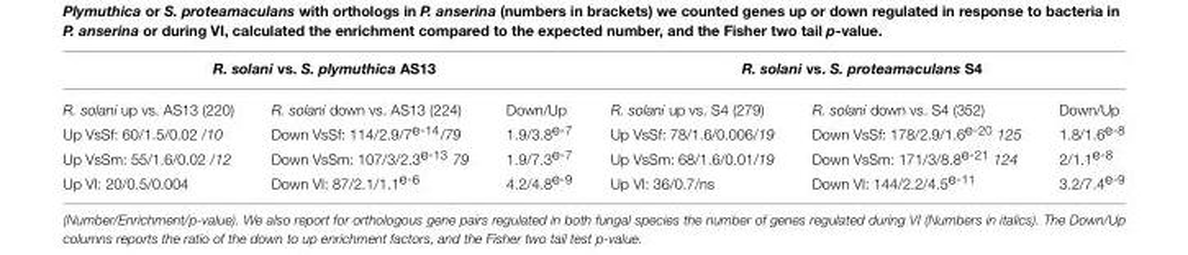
<table><thead><tr><td colspan="3">R. solani vs. S. plymuthica AS13</td><td colspan="3">R. solani vs. S. proteamaculans S4</td></tr><tr><td>R. solani up vs. AS13 (220)</td><td>R. solani down vs. AS13 (224)</td><td>Down/Up</td><td>R. solani up vs. S4 (279)</td><td>R. solani down vs. S4 (352)</td><td>Down/Up</td></tr></thead><tbody><tr><td>Up VsSf: 60/1.5/0.02 /10</td><td>Down VsSf: 114/2.9/7<sup>e-14</sup>/79</td><td>1.9/3.8<sup>e-7</sup></td><td>Up VsSf: 78/1.6/0.006/19</td><td>Down VsSf: 178/2.9/1.6<sup>e-20</sup> 125</td><td>1.8/1.6<sup>e-8</sup></td></tr><tr><td>Up VsSm: 55/1.6/0.02 /12</td><td>Down VsSm: 107/3/2.3<sup>e-13</sup> 79</td><td>1.9/7.3<sup>e-7</sup></td><td>Up VsSm: 68/1.6/0.01/19</td><td>Down VsSm: 171/3/8.8<sup>e-21</sup> 124</td><td>2/1.1<sup>e-8</sup></td></tr><tr><td>Up VI: 20/0.5/0.004</td><td>Down VI: 87/2.1/1.1<sup>e-6</sup></td><td>4.2/4.8<sup>e-9</sup></td><td>Up VI: 36/0.7/ns</td><td>Down VI: 144/2.2/4.5<sup>e-11</sup></td><td>3.2/7.4<sup>e-9</sup></td></tr></tbody></table>